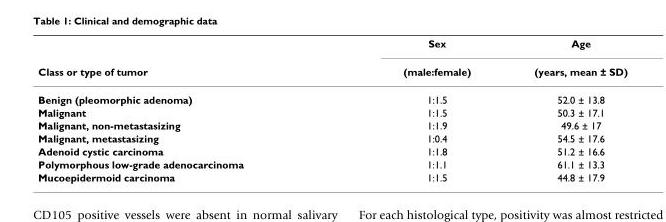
<table><thead><tr><td rowspan="2">Class or type of tumor</td><td rowspan="2">Sex (male:female)</td><td rowspan="2">Age (years, mean ± SD)</td></tr><tr></tr></thead><tbody><tr><td>Benign (pleomorphic adenoma)</td><td>1:1.5</td><td>52.0 ± 13.8</td></tr><tr><td>Malignant</td><td>1:1.5</td><td>50.3 ± 17.1</td></tr><tr><td>Malignant, non-metastasizing</td><td>1:1.9</td><td>49.6 ± 17</td></tr><tr><td>Malignant, metastasizing</td><td>1:0.4</td><td>54.5 ± 17.6</td></tr><tr><td>Adenoid cystic carcinoma</td><td>1:1.8</td><td>51.2 ± 16.6</td></tr><tr><td>Polymorphous low-grade adenocarcinoma</td><td>1:1.1</td><td>61.1 ± 13.3</td></tr><tr><td>Mucoepidermoid carcinoma</td><td>1:1.5</td><td>44.8 ± 17.9</td></tr></tbody></table>